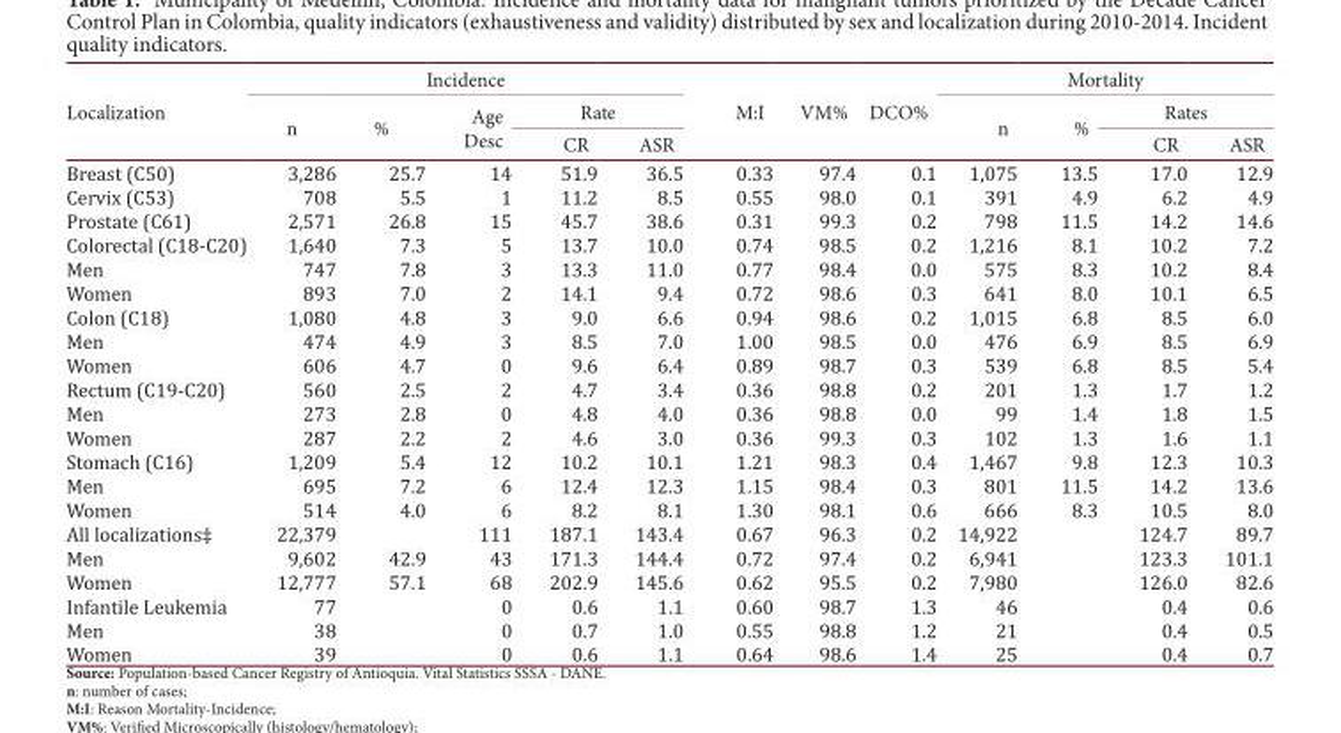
<table><thead><tr><td rowspan="3">Localization</td><td colspan="5">Incidence</td><td rowspan="3">M:I</td><td rowspan="3">VM%</td><td rowspan="3">DCO%</td><td colspan="4">Mortality</td></tr><tr><td rowspan="2">n</td><td rowspan="2">%</td><td rowspan="2">Age Desc</td><td colspan="2">Rate</td><td rowspan="2">n</td><td rowspan="2">%</td><td colspan="2">Rates</td></tr><tr><td>CR</td><td>ASR</td><td>CR</td><td>ASR</td></tr></thead><tbody><tr><td>Breast (C50)</td><td>3,286</td><td>25.7</td><td>14</td><td>51.9</td><td>36.5</td><td>0.33</td><td>97.4</td><td>0.1</td><td>1,075</td><td>13.5</td><td>17.0</td><td>12.9</td></tr><tr><td>Cervix (C53)</td><td>708</td><td>5.5</td><td>1</td><td>11.2</td><td>8.5</td><td>0.55</td><td>98.0</td><td>0.1</td><td>391</td><td>4.9</td><td>6.2</td><td>4.9</td></tr><tr><td>Prostate (C61)</td><td>2,571</td><td>26.8</td><td>15</td><td>45.7</td><td>38.6</td><td>0.31</td><td>99.3</td><td>0.2</td><td>798</td><td>11.5</td><td>14.2</td><td>14.6</td></tr><tr><td>Colorectal (C18-C20)</td><td>1,640</td><td>7.3</td><td>5</td><td>13.7</td><td>10.0</td><td>0.74</td><td>98.5</td><td>0.2</td><td>1,216</td><td>8.1</td><td>10.2</td><td>7.2</td></tr><tr><td>Men</td><td>747</td><td>7.8</td><td>3</td><td>13.3</td><td>11.0</td><td>0.77</td><td>98.4</td><td>0.0</td><td>575</td><td>8.3</td><td>10.2</td><td>8.4</td></tr><tr><td>Women</td><td>893</td><td>7.0</td><td>2</td><td>14.1</td><td>9.4</td><td>0.72</td><td>98.6</td><td>0.3</td><td>641</td><td>8.0</td><td>10.1</td><td>6.5</td></tr><tr><td>Colon (C18)</td><td>1,080</td><td>4.8</td><td>3</td><td>9.0</td><td>6.6</td><td>0.94</td><td>98.6</td><td>0.2</td><td>1,015</td><td>6.8</td><td>8.5</td><td>6.0</td></tr><tr><td>Men</td><td>474</td><td>4.9</td><td>3</td><td>8.5</td><td>7.0</td><td>1.00</td><td>98.5</td><td>0.0</td><td>476</td><td>6.9</td><td>8.5</td><td>6.9</td></tr><tr><td>Women</td><td>606</td><td>4.7</td><td>0</td><td>9.6</td><td>6.4</td><td>0.89</td><td>98.7</td><td>0.3</td><td>539</td><td>6.8</td><td>8.5</td><td>5.4</td></tr><tr><td>Rectum (C19-C20)</td><td>560</td><td>2.5</td><td>2</td><td>4.7</td><td>3.4</td><td>0.36</td><td>98.8</td><td>0.2</td><td>201</td><td>1.3</td><td>1.7</td><td>1.2</td></tr><tr><td>Men</td><td>273</td><td>2.8</td><td>0</td><td>4.8</td><td>4.0</td><td>0.36</td><td>98.8</td><td>0.0</td><td>99</td><td>1.4</td><td>1.8</td><td>1.5</td></tr><tr><td>Women</td><td>287</td><td>2.2</td><td>2</td><td>4.6</td><td>3.0</td><td>0.36</td><td>99.3</td><td>0.3</td><td>102</td><td>1.3</td><td>1.6</td><td>1.1</td></tr><tr><td>Stomach (C16)</td><td>1,209</td><td>5.4</td><td>12</td><td>10.2</td><td>10.1</td><td>1.21</td><td>98.3</td><td>0.4</td><td>1,467</td><td>9.8</td><td>12.3</td><td>10.3</td></tr><tr><td>Men</td><td>695</td><td>7.2</td><td>6</td><td>12.4</td><td>12.3</td><td>1.15</td><td>98.4</td><td>0.3</td><td>801</td><td>11.5</td><td>14.2</td><td>13.6</td></tr><tr><td>Women</td><td>514</td><td>4.0</td><td>6</td><td>8.2</td><td>8.1</td><td>1.30</td><td>98.1</td><td>0.6</td><td>666</td><td>8.3</td><td>10.5</td><td>8.0</td></tr><tr><td>All localizations‡</td><td>22,379</td><td></td><td>111</td><td>187.1</td><td>143.4</td><td>0.67</td><td>96.3</td><td>0.2</td><td>14,922</td><td></td><td>124.7</td><td>89.7</td></tr><tr><td>Men</td><td>9,602</td><td>42.9</td><td>43</td><td>171.3</td><td>144.4</td><td>0.72</td><td>97.4</td><td>0.2</td><td>6,941</td><td></td><td>123.3</td><td>101.1</td></tr><tr><td>Women</td><td>12,777</td><td>57.1</td><td>68</td><td>202.9</td><td>145.6</td><td>0.62</td><td>95.5</td><td>0.2</td><td>7,980</td><td></td><td>126.0</td><td>82.6</td></tr><tr><td>Infantile Leukemia</td><td>77</td><td></td><td>0</td><td>0.6</td><td>1.1</td><td>0.60</td><td>98.7</td><td>1.3</td><td>46</td><td></td><td>0.4</td><td>0.6</td></tr><tr><td>Men</td><td>38</td><td></td><td>0</td><td>0.7</td><td>1.0</td><td>0.55</td><td>98.8</td><td>1.2</td><td>21</td><td></td><td>0.4</td><td>0.5</td></tr><tr><td>Women</td><td>39</td><td></td><td>0</td><td>0.6</td><td>1.1</td><td>0.64</td><td>98.6</td><td>1.4</td><td>25</td><td></td><td>0.4</td><td>0.7</td></tr></tbody></table>